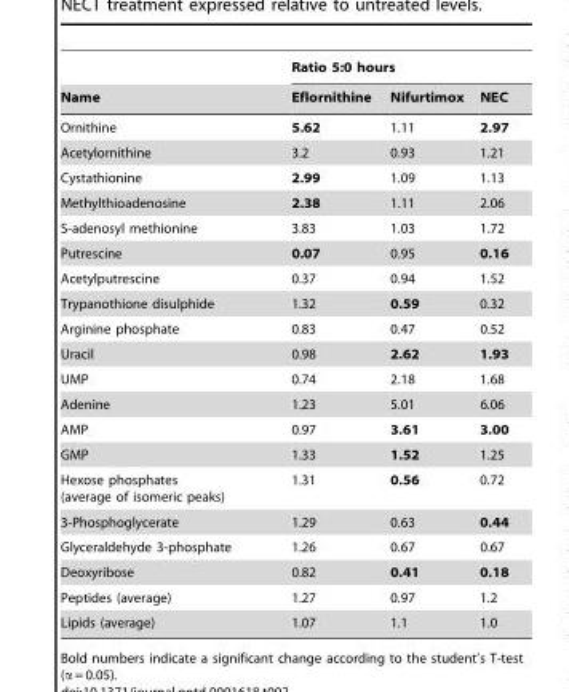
<table><thead><tr><td rowspan="2">Name</td><td colspan="3">Ratio 5:0 hours</td></tr><tr><td>Eflornithine</td><td>Nifurtimox</td><td>NEC</td></tr></thead><tbody><tr><td>Ornithine</td><td>5.62</td><td>1.11</td><td>2.97</td></tr><tr><td>Acetylornithine</td><td>3.2</td><td>0.93</td><td>1.21</td></tr><tr><td>Cystathionine</td><td>2.99</td><td>1.09</td><td>1.13</td></tr><tr><td>Methylthioadenosine</td><td>2.38</td><td>1.11</td><td>2.06</td></tr><tr><td>S-adenosyl methionine</td><td>3.83</td><td>1.03</td><td>1.72</td></tr><tr><td>Putrescine</td><td>0.07</td><td>0.95</td><td>0.16</td></tr><tr><td>Acetylputrescine</td><td>0.37</td><td>0.94</td><td>1.52</td></tr><tr><td>Trypanothione disulphide</td><td>1.32</td><td>0.59</td><td>0.32</td></tr><tr><td>Arginine phosphate</td><td>0.83</td><td>0.47</td><td>0.52</td></tr><tr><td>Uracil</td><td>0.98</td><td>2.62</td><td>1.93</td></tr><tr><td>UMP</td><td>0.74</td><td>2.18</td><td>1.68</td></tr><tr><td>Adenine</td><td>1.23</td><td>5.01</td><td>6.06</td></tr><tr><td>AMP</td><td>0.97</td><td>3.61</td><td>3.00</td></tr><tr><td>GMP</td><td>1.33</td><td>1.52</td><td>1.25</td></tr><tr><td>Hexose phosphates (average of isomeric peaks)</td><td>1.31</td><td>0.56</td><td>0.72</td></tr><tr><td>3-Phosphoglycerate</td><td>1.29</td><td>0.63</td><td>0.44</td></tr><tr><td>Glyceraldehyde 3-phosphate</td><td>1.26</td><td>0.67</td><td>0.67</td></tr><tr><td>Deoxyribose</td><td>0.82</td><td>0.41</td><td>0.18</td></tr><tr><td>Peptides (average)</td><td>1.27</td><td>0.97</td><td>1.2</td></tr><tr><td>Lipids (average)</td><td>1.07</td><td>1.1</td><td>1.0</td></tr></tbody></table>